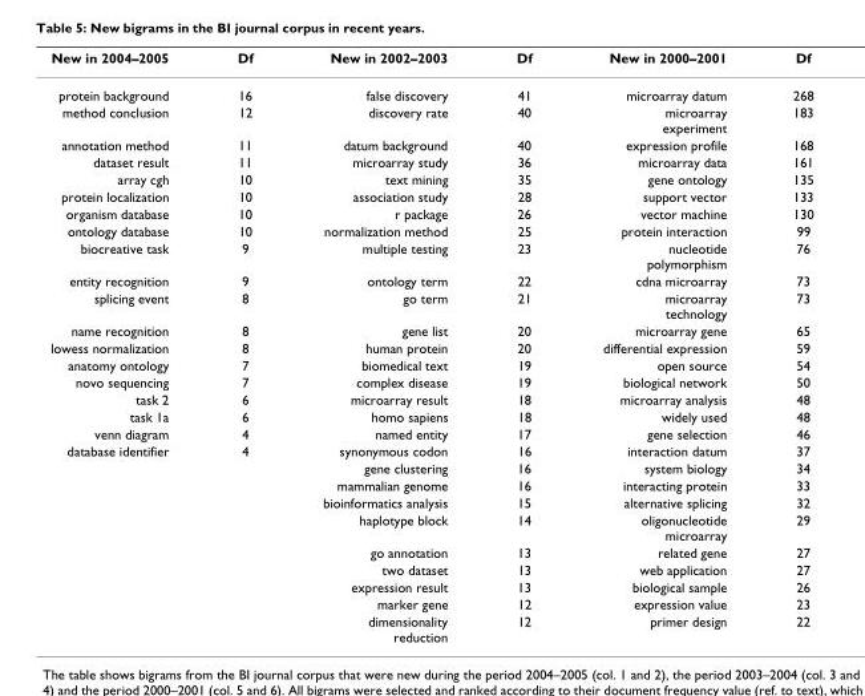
<table><thead><tr><td>New in 2004–2005</td><td>Df</td><td>New in 2002–2003</td><td>Df</td><td>New in 2000–2001</td><td>Df</td></tr></thead><tbody><tr><td>protein background</td><td>16</td><td>false discovery</td><td>41</td><td>microarray datum</td><td>268</td></tr><tr><td>method conclusion</td><td>12</td><td>discovery rate</td><td>40</td><td>microarray experiment</td><td>183</td></tr><tr><td>annotation method</td><td>11</td><td>datum background</td><td>40</td><td>expression profile</td><td>168</td></tr><tr><td>dataset result</td><td>11</td><td>microarray study</td><td>36</td><td>microarray data</td><td>161</td></tr><tr><td>array cgh</td><td>10</td><td>text mining</td><td>35</td><td>gene ontology</td><td>135</td></tr><tr><td>protein localization</td><td>10</td><td>association study</td><td>28</td><td>support vector</td><td>133</td></tr><tr><td>organism database</td><td>10</td><td>r package</td><td>26</td><td>vector machine</td><td>130</td></tr><tr><td>ontology database</td><td>10</td><td>normalization method</td><td>25</td><td>protein interaction</td><td>99</td></tr><tr><td>biocreative task</td><td>9</td><td>multiple testing</td><td>23</td><td>nucleotide polymorphism</td><td>76</td></tr><tr><td>entity recognition</td><td>9</td><td>ontology term</td><td>22</td><td>cdna microarray</td><td>73</td></tr><tr><td>splicing event</td><td>8</td><td>go term</td><td>21</td><td>microarray technology</td><td>73</td></tr><tr><td>name recognition</td><td>8</td><td>gene list</td><td>20</td><td>microarray gene</td><td>65</td></tr><tr><td>lowess normalization</td><td>8</td><td>human protein</td><td>20</td><td>differential expression</td><td>59</td></tr><tr><td>anatomy ontology</td><td>7</td><td>biomedical text</td><td>19</td><td>open source</td><td>54</td></tr><tr><td>novo sequencing</td><td>7</td><td>complex disease</td><td>19</td><td>biological network</td><td>50</td></tr><tr><td>task 2</td><td>6</td><td>microarray result</td><td>18</td><td>microarray analysis</td><td>48</td></tr><tr><td>task 1a</td><td>6</td><td>homo sapiens</td><td>18</td><td>widely used</td><td>48</td></tr><tr><td>venn diagram</td><td>4</td><td>named entity</td><td>17</td><td>gene selection</td><td>46</td></tr><tr><td rowspan="10">database identifier</td><td>4</td><td>synonymous codon</td><td>16</td><td>interaction datum</td><td>37</td></tr><tr><td></td><td>gene clustering</td><td>16</td><td>system biology</td><td>34</td></tr><tr><td></td><td>mammalian genome</td><td>16</td><td>interacting protein</td><td>33</td></tr><tr><td></td><td>bioinformatics analysis</td><td>15</td><td>alternative splicing</td><td>32</td></tr><tr><td></td><td>haplotype block</td><td>14</td><td>oligonucleotide microarray</td><td>29</td></tr><tr><td></td><td>go annotation</td><td>13</td><td>related gene</td><td>27</td></tr><tr><td></td><td>two dataset</td><td>13</td><td>web application</td><td>27</td></tr><tr><td></td><td>expression result</td><td>13</td><td>biological sample</td><td>26</td></tr><tr><td></td><td>marker gene</td><td>12</td><td>expression value</td><td>23</td></tr><tr><td></td><td>dimensionality reduction</td><td>12</td><td>primer design</td><td>22</td></tr></tbody></table>